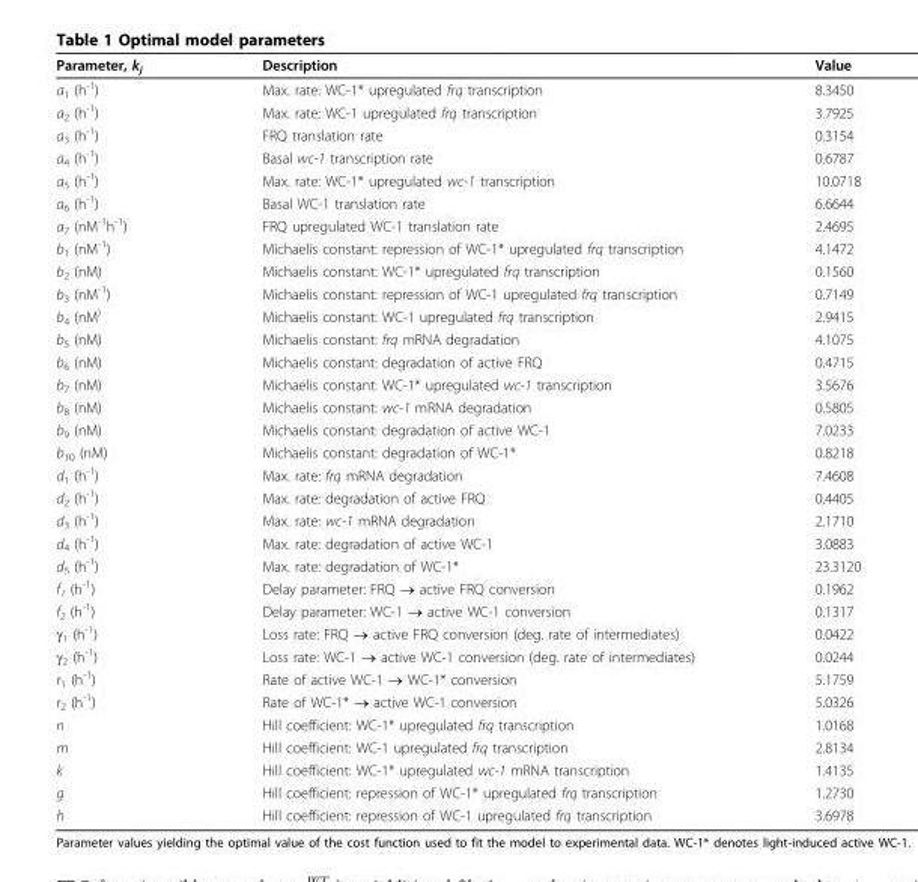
<table><thead><tr><td>Parameter, k<sub>j</sub></td><td>Description</td><td>Value</td></tr></thead><tbody><tr><td>a<sub>1</sub> (h<sup>-1</sup>)</td><td>Max. rate: WC-1* upregulated frq transcription</td><td>8.3450</td></tr><tr><td>a<sub>2</sub> (h<sup>-1</sup>)</td><td>Max. rate: WC-1 upregulated frq transcription</td><td>3.7925</td></tr><tr><td>a<sub>3</sub> (h<sup>-1</sup>)</td><td>FRQ translation rate</td><td>0.3154</td></tr><tr><td>a<sub>4</sub> (h<sup>-1</sup>)</td><td>Basal wc-1 transcription rate</td><td>0.6787</td></tr><tr><td>a<sub>5</sub> (h<sup>-1</sup>)</td><td>Max. rate: WC-1* upregulated wc-1 transcription</td><td>10.0718</td></tr><tr><td>a<sub>6</sub> (h<sup>-1</sup>)</td><td>Basal WC-1 translation rate</td><td>6.6644</td></tr><tr><td>a<sub>7</sub> (nM<sup>-1</sup>h<sup>-1</sup>)</td><td>FRQ upregulated WC-1 translation rate</td><td>2.4695</td></tr><tr><td>b<sub>1</sub> (nM<sup>-1</sup>)</td><td>Michaelis constant: repression of WC-1* upregulated frq transcription</td><td>4.1472</td></tr><tr><td>b<sub>2</sub> (nM)</td><td>Michaelis constant: WC-1* upregulated frq transcription</td><td>0.1560</td></tr><tr><td>b<sub>3</sub> (nM<sup>-1</sup>)</td><td>Michaelis constant: repression of WC-1 upregulated frq transcription</td><td>0.7149</td></tr><tr><td>b<sub>4</sub> (nM<sup>)</sup></td><td>Michaelis constant: WC-1 upregulated frq transcription</td><td>2.9415</td></tr><tr><td>b<sub>5</sub> (nM)</td><td>Michaelis constant: frq mRNA degradation</td><td>4.1075</td></tr><tr><td>b<sub>6</sub> (nM)</td><td>Michaelis constant: degradation of active FRQ</td><td>0.4715</td></tr><tr><td>b<sub>7</sub> (nM)</td><td>Michaelis constant: WC-1* upregulated wc-1 transcription</td><td>3.5676</td></tr><tr><td>b<sub>8</sub> (nM)</td><td>Michaelis constant: wc-1 mRNA degradation</td><td>0.5805</td></tr><tr><td>b<sub>9</sub> (nM)</td><td>Michaelis constant: degradation of active WC-1</td><td>7.0233</td></tr><tr><td>b<sub>10</sub> (nM)</td><td>Michaelis constant: degradation of WC-1*</td><td>0.8218</td></tr><tr><td>d<sub>1</sub> (h<sup>-1</sup>)</td><td>Max. rate: frq mRNA degradation</td><td>7.4608</td></tr><tr><td>d<sub>2</sub> (h<sup>-1</sup>)</td><td>Max. rate: degradation of active FRQ</td><td>0.4405</td></tr><tr><td>d<sub>3</sub> (h<sup>-1</sup>)</td><td>Max. rate: wc-1 mRNA degradation</td><td>2.1710</td></tr><tr><td>d<sub>4</sub> (h<sup>-1</sup>)</td><td>Max. rate: degradation of active WC-1</td><td>3.0883</td></tr><tr><td>d<sub>5</sub> (h<sup>-1</sup>)</td><td>Max. rate: degradation of WC-1*</td><td>23.3120</td></tr><tr><td>f<sub>1</sub> (h<sup>-1</sup>)</td><td>Delay parameter: FRQ → active FRQ conversion</td><td>0.1962</td></tr><tr><td>f<sub>2</sub> (h<sup>-1</sup>)</td><td>Delay parameter: WC-1 → active WC-1 conversion</td><td>0.1317</td></tr><tr><td>γ<sub>1</sub> (h<sup>-1</sup>)</td><td>Loss rate: FRQ → active FRQ conversion (deg. rate of intermediates)</td><td>0.0422</td></tr><tr><td>γ<sub>2</sub> (h<sup>-1</sup>)</td><td>Loss rate: WC-1 → active WC-1 conversion (deg. rate of intermediates)</td><td>0.0244</td></tr><tr><td>r<sub>1</sub> (h<sup>-1</sup>)</td><td>Rate of active WC-1 → WC-1* conversion</td><td>5.1759</td></tr><tr><td>r<sub>2</sub> (h<sup>-1</sup>)</td><td>Rate of WC-1* → active WC-1 conversion</td><td>5.0326</td></tr><tr><td>n</td><td>Hill coefficient: WC-1* upregulated frq transcription</td><td>1.0168</td></tr><tr><td>m</td><td>Hill coefficient: WC-1 upregulated frq transcription</td><td>2.8134</td></tr><tr><td>k</td><td>Hill coefficient: WC-1* upregulated wc-1 mRNA transcription</td><td>1.4135</td></tr><tr><td>g</td><td>Hill coefficient: repression of WC-1* upregulated frq transcription</td><td>1.2730</td></tr><tr><td>h</td><td>Hill coefficient: repression of WC-1 upregulated frq transcription</td><td>3.6978</td></tr></tbody></table>